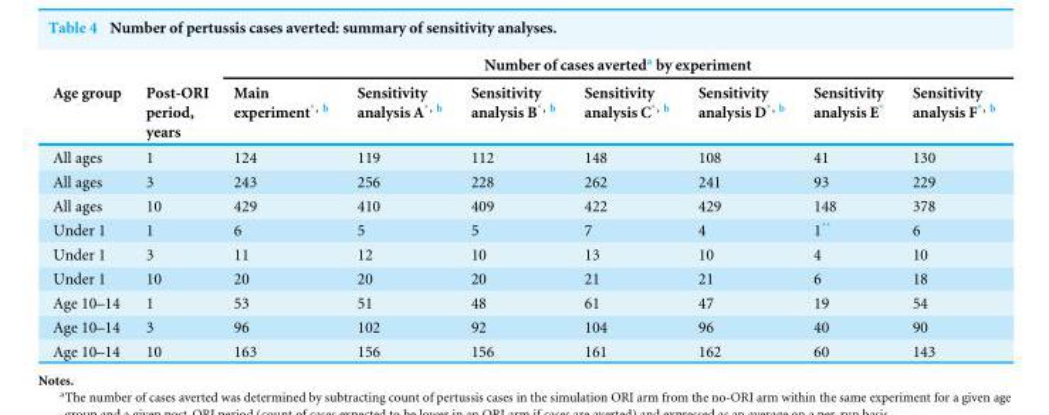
<table><thead><tr><td rowspan="2">Age group</td><td rowspan="2">Post-ORI period, years</td><td colspan="7">Number of cases averted<sup>a</sup> by experiment</td></tr><tr><td>Main experiment<sup>*, b</sup></td><td>Sensitivity analysis A<sup>*, b</sup></td><td>Sensitivity analysis B<sup>*, b</sup></td><td>Sensitivity analysis C<sup>*, b</sup></td><td>Sensitivity analysis D<sup>*, b</sup></td><td>Sensitivity analysis E*</td><td>Sensitivity analysis F<sup>*, b</sup></td></tr></thead><tbody><tr><td>All ages</td><td>1</td><td>124</td><td>119</td><td>112</td><td>148</td><td>108</td><td>41</td><td>130</td></tr><tr><td>All ages</td><td>3</td><td>243</td><td>256</td><td>228</td><td>262</td><td>241</td><td>93</td><td>229</td></tr><tr><td>All ages</td><td>10</td><td>429</td><td>410</td><td>409</td><td>422</td><td>429</td><td>148</td><td>378</td></tr><tr><td>Under 1</td><td>1</td><td>6</td><td>5</td><td>5</td><td>7</td><td>4</td><td>1**</td><td>6</td></tr><tr><td>Under 1</td><td>3</td><td>11</td><td>12</td><td>10</td><td>13</td><td>10</td><td>4</td><td>10</td></tr><tr><td>Under 1</td><td>10</td><td>20</td><td>20</td><td>20</td><td>21</td><td>21</td><td>6</td><td>18</td></tr><tr><td>Age 10–14</td><td>1</td><td>53</td><td>51</td><td>48</td><td>61</td><td>47</td><td>19</td><td>54</td></tr><tr><td>Age 10–14</td><td>3</td><td>96</td><td>102</td><td>92</td><td>104</td><td>96</td><td>40</td><td>90</td></tr><tr><td>Age 10–14</td><td>10</td><td>163</td><td>156</td><td>156</td><td>161</td><td>162</td><td>60</td><td>143</td></tr></tbody></table>